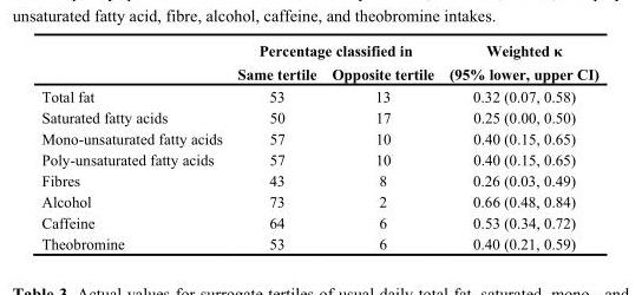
<table><thead><tr><td rowspan="2"></td><td colspan="2">Percentage classified in</td><td rowspan="2">Weighted κ (95% lower, upper CI)</td></tr><tr><td>Same tertile</td><td>Opposite tertile</td></tr></thead><tbody><tr><td>Total fat</td><td>53</td><td>13</td><td>0.32 (0.07, 0.58)</td></tr><tr><td>Saturated fatty acids</td><td>50</td><td>17</td><td>0.25 (0.00, 0.50)</td></tr><tr><td>Mono-unsaturated fatty acids</td><td>57</td><td>10</td><td>0.40 (0.15, 0.65)</td></tr><tr><td>Poly-unsaturated fatty acids</td><td>57</td><td>10</td><td>0.40 (0.15, 0.65)</td></tr><tr><td>Fibres</td><td>43</td><td>8</td><td>0.26 (0.03, 0.49)</td></tr><tr><td>Alcohol</td><td>73</td><td>2</td><td>0.66 (0.48, 0.84)</td></tr><tr><td>Caffeine</td><td>64</td><td>6</td><td>0.53 (0.34, 0.72)</td></tr><tr><td>Theobromine</td><td>53</td><td>6</td><td>0.40 (0.21, 0.59)</td></tr></tbody></table>